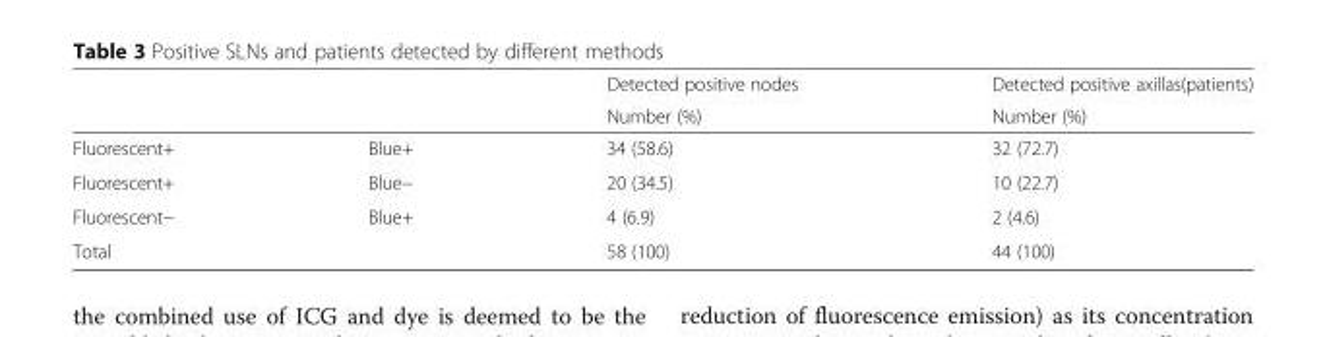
<table><thead><tr><td rowspan="2"></td><td rowspan="2"></td><td rowspan="2">Detected positive nodes Number (%)</td><td rowspan="2">Detected positive axillas(patients) Number (%)</td></tr><tr></tr></thead><tbody><tr><td>Fluorescent+</td><td>Blue+</td><td>34 (58.6)</td><td>32 (72.7)</td></tr><tr><td>Fluorescent+</td><td>Blue−</td><td>20 (34.5)</td><td>10 (22.7)</td></tr><tr><td>Fluorescent−</td><td>Blue+</td><td>4 (6.9)</td><td>2 (4.6)</td></tr><tr><td colspan="2">Total</td><td>58 (100)</td><td>44 (100)</td></tr></tbody></table>